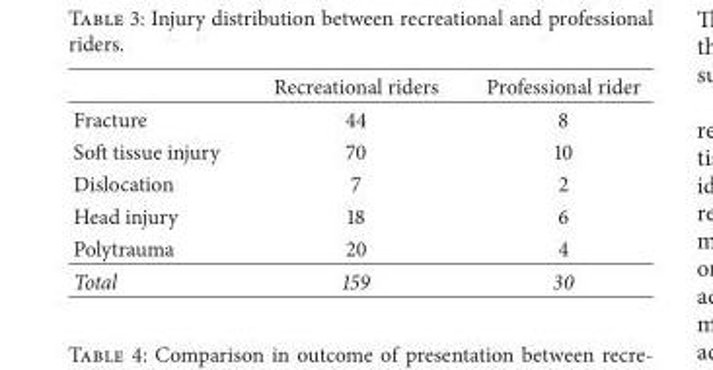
<table><thead><tr><td></td><td>Recreational riders</td><td>Professional rider</td></tr></thead><tbody><tr><td>Fracture</td><td>44</td><td>8</td></tr><tr><td>Soft tissue injury</td><td>70</td><td>10</td></tr><tr><td>Dislocation</td><td>7</td><td>2</td></tr><tr><td>Head injury</td><td>18</td><td>6</td></tr><tr><td>Polytrauma</td><td>20</td><td>4</td></tr><tr><td>Total</td><td>159</td><td>30</td></tr></tbody></table>